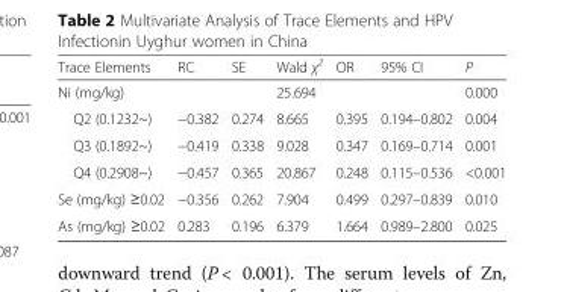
<table><thead><tr><td>Trace Elements</td><td>RC</td><td>SE</td><td>Wald χ<sup>2</sup></td><td>OR</td><td>95% CI</td><td>P</td></tr></thead><tbody><tr><td>Ni (mg/kg)</td><td></td><td></td><td>25.694</td><td></td><td></td><td>0.000</td></tr><tr><td>Q2 (0.1232~)</td><td>−0.382</td><td>0.274</td><td>8.665</td><td>0.395</td><td>0.194–0.802</td><td>0.004</td></tr><tr><td>Q3 (0.1892~)</td><td>−0.419</td><td>0.338</td><td>9.028</td><td>0.347</td><td>0.169–0.714</td><td>0.001</td></tr><tr><td>Q4 (0.2908~)</td><td>−0.457</td><td>0.365</td><td>20.867</td><td>0.248</td><td>0.115–0.536</td><td>&lt;0.001</td></tr><tr><td>Se (mg/kg) ≥0.02</td><td>−0.356</td><td>0.262</td><td>7.904</td><td>0.499</td><td>0.297–0.839</td><td>0.010</td></tr><tr><td>As (mg/kg) ≥0.02</td><td>0.283</td><td>0.196</td><td>6.379</td><td>1.664</td><td>0.989–2.800</td><td>0.025</td></tr></tbody></table>